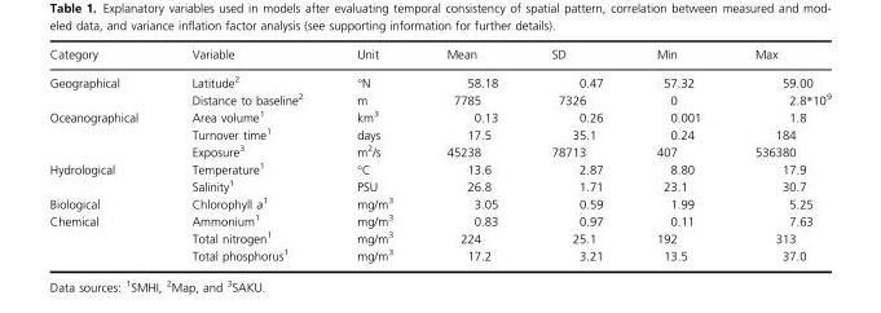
<table><thead><tr><td>Category</td><td>Variable</td><td>Unit</td><td>Mean</td><td>SD</td><td>Min</td><td>Max</td></tr></thead><tbody><tr><td rowspan="2">Geographical</td><td>Latitude<sup>2</sup></td><td>°N</td><td>58.18</td><td>0.47</td><td>57.32</td><td>59.00</td></tr><tr><td>Distance to baseline<sup>2</sup></td><td>m</td><td>7785</td><td>7326</td><td>0</td><td>2.8*10<sup>9</sup></td></tr><tr><td rowspan="3">Oceanographical</td><td>Area volume<sup>1</sup></td><td>km<sup>3</sup></td><td>0.13</td><td>0.26</td><td>0.001</td><td>1.8</td></tr><tr><td>Turnover time<sup>1</sup></td><td>days</td><td>17.5</td><td>35.1</td><td>0.24</td><td>184</td></tr><tr><td>Exposure<sup>3</sup></td><td>m<sup>2</sup>/s</td><td>45238</td><td>78713</td><td>407</td><td>536380</td></tr><tr><td rowspan="2">Hydrological</td><td>Temperature<sup>1</sup></td><td>°C</td><td>13.6</td><td>2.87</td><td>8.80</td><td>17.9</td></tr><tr><td>Salinity<sup>1</sup></td><td>PSU</td><td>26.8</td><td>1.71</td><td>23.1</td><td>30.7</td></tr><tr><td>Biological</td><td>Chlorophyll a1</td><td>mg/m<sup>3</sup></td><td>3.05</td><td>0.59</td><td>1.99</td><td>5.25</td></tr><tr><td rowspan="3">Chemical</td><td>Ammonium<sup>1</sup></td><td>mg/m<sup>3</sup></td><td>0.83</td><td>0.97</td><td>0.11</td><td>7.63</td></tr><tr><td>Total nitrogen<sup>1</sup></td><td>mg/m<sup>3</sup></td><td>224</td><td>25.1</td><td>192</td><td>313</td></tr><tr><td>Total phosphorus<sup>1</sup></td><td>mg/m<sup>3</sup></td><td>17.2</td><td>3.21</td><td>13.5</td><td>37.0</td></tr></tbody></table>